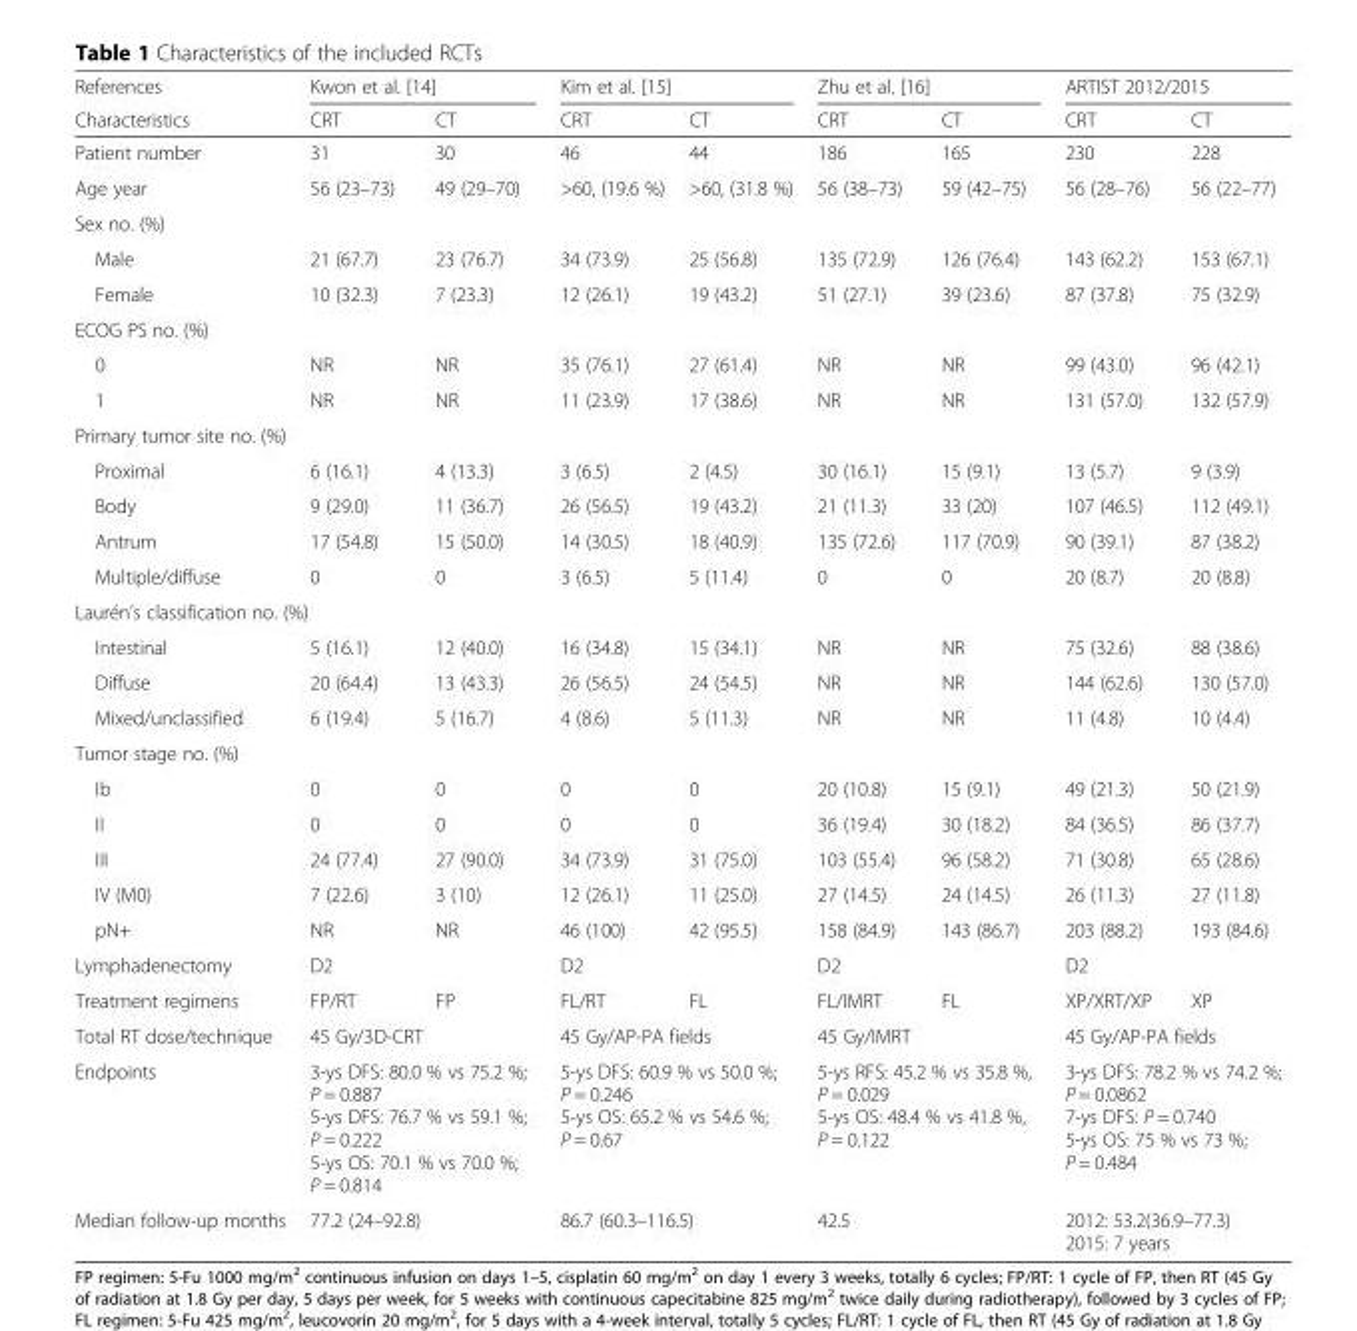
<table><thead><tr><td rowspan="2">References Characteristics</td><td colspan="2">Kwon et al. [14]</td><td colspan="2">Kim et al. [15]</td><td colspan="2">Zhu et al. [16]</td><td colspan="2">ARTIST 2012/2015</td></tr><tr><td>CRT</td><td>CT</td><td>CRT</td><td>CT</td><td>CRT</td><td>CT</td><td>CRT</td><td>CT</td></tr></thead><tbody><tr><td>Patient number</td><td>31</td><td>30</td><td>46</td><td>44</td><td>186</td><td>165</td><td>230</td><td>228</td></tr><tr><td>Age year</td><td>56 (23–73)</td><td>49 (29–70)</td><td>&gt;60, (19.6 %)</td><td>&gt;60, (31.8 %)</td><td>56 (38–73)</td><td>59 (42–75)</td><td>56 (28–76)</td><td>56 (22–77)</td></tr><tr><td colspan="9">Sex no. (%)</td></tr><tr><td>Male</td><td>21 (67.7)</td><td>23 (76.7)</td><td>34 (73.9)</td><td>25 (56.8)</td><td>135 (72.9)</td><td>126 (76.4)</td><td>143 (62.2)</td><td>153 (67.1)</td></tr><tr><td>Female</td><td>10 (32.3)</td><td>7 (23.3)</td><td>12 (26.1)</td><td>19 (43.2)</td><td>51 (27.1)</td><td>39 (23.6)</td><td>87 (37.8)</td><td>75 (32.9)</td></tr><tr><td colspan="9">ECOG PS no. (%)</td></tr><tr><td>0</td><td>NR</td><td>NR</td><td>35 (76.1)</td><td>27 (61.4)</td><td>NR</td><td>NR</td><td>99 (43.0)</td><td>96 (42.1)</td></tr><tr><td>1</td><td>NR</td><td>NR</td><td>11 (23.9)</td><td>17 (38.6)</td><td>NR</td><td>NR</td><td>131 (57.0)</td><td>132 (57.9)</td></tr><tr><td colspan="9">Primary tumor site no. (%)</td></tr><tr><td>Proximal</td><td>6 (16.1)</td><td>4 (13.3)</td><td>3 (6.5)</td><td>2 (4.5)</td><td>30 (16.1)</td><td>15 (9.1)</td><td>13 (5.7)</td><td>9 (3.9)</td></tr><tr><td>Body</td><td>9 (29.0)</td><td>11 (36.7)</td><td>26 (56.5)</td><td>19 (43.2)</td><td>21 (11.3)</td><td>33 (20)</td><td>107 (46.5)</td><td>112 (49.1)</td></tr><tr><td>Antrum</td><td>17 (54.8)</td><td>15 (50.0)</td><td>14 (30.5)</td><td>18 (40.9)</td><td>135 (72.6)</td><td>117 (70.9)</td><td>90 (39.1)</td><td>87 (38.2)</td></tr><tr><td>Multiple/diffuse</td><td>0</td><td>0</td><td>3 (6.5)</td><td>5 (11.4)</td><td>0</td><td>0</td><td>20 (8.7)</td><td>20 (8.8)</td></tr><tr><td colspan="9">Laurén’s classification no. (%)</td></tr><tr><td>Intestinal</td><td>5 (16.1)</td><td>12 (40.0)</td><td>16 (34.8)</td><td>15 (34.1)</td><td>NR</td><td>NR</td><td>75 (32.6)</td><td>88 (38.6)</td></tr><tr><td>Diffuse</td><td>20 (64.4)</td><td>13 (43.3)</td><td>26 (56.5)</td><td>24 (54.5)</td><td>NR</td><td>NR</td><td>144 (62.6)</td><td>130 (57.0)</td></tr><tr><td>Mixed/unclassified</td><td>6 (19.4)</td><td>5 (16.7)</td><td>4 (8.6)</td><td>5 (11.3)</td><td>NR</td><td>NR</td><td>11 (4.8)</td><td>10 (4.4)</td></tr><tr><td colspan="9">Tumor stage no. (%)</td></tr><tr><td>Ib</td><td>0</td><td>0</td><td>0</td><td>0</td><td>20 (10.8)</td><td>15 (9.1)</td><td>49 (21.3)</td><td>50 (21.9)</td></tr><tr><td>II</td><td>0</td><td>0</td><td>0</td><td>0</td><td>36 (19.4)</td><td>30 (18.2)</td><td>84 (36.5)</td><td>86 (37.7)</td></tr><tr><td>III</td><td>24 (77.4)</td><td>27 (90.0)</td><td>34 (73.9)</td><td>31 (75.0)</td><td>103 (55.4)</td><td>96 (58.2)</td><td>71 (30.8)</td><td>65 (28.6)</td></tr><tr><td>IV (M0)</td><td>7 (22.6)</td><td>3 (10)</td><td>12 (26.1)</td><td>11 (25.0)</td><td>27 (14.5)</td><td>24 (14.5)</td><td>26 (11.3)</td><td>27 (11.8)</td></tr><tr><td>pN+</td><td>NR</td><td>NR</td><td>46 (100)</td><td>42 (95.5)</td><td>158 (84.9)</td><td>143 (86.7)</td><td>203 (88.2)</td><td>193 (84.6)</td></tr><tr><td>Lymphadenectomy</td><td colspan="2">D2</td><td colspan="2">D2</td><td colspan="2">D2</td><td colspan="2">D2</td></tr><tr><td>Treatment regimens</td><td>FP/RT</td><td>FP</td><td>FL/RT</td><td>FL</td><td>FL/IMRT</td><td>FL</td><td>XP/XRT/XP</td><td>XP</td></tr><tr><td>Total RT dose/technique</td><td colspan="2">45 Gy/3D-CRT</td><td colspan="2">45 Gy/AP-PA fields</td><td colspan="2">45 Gy/IMRT</td><td colspan="2">45 Gy/AP-PA fields</td></tr><tr><td>Endpoints</td><td colspan="2">3-ys DFS: 80.0 % vs 75.2 %; P = 0.887 5-ys DFS: 76.7 % vs 59.1 %; P = 0.222 5-ys OS: 70.1 % vs 70.0 %; P = 0.814</td><td colspan="2">5-ys DFS: 60.9 % vs 50.0 %; P = 0.246 5-ys OS: 65.2 % vs 54.6 %; P = 0.67</td><td colspan="2">5-ys RFS: 45.2 % vs 35.8 %, P = 0.029 5-ys OS: 48.4 % vs 41.8 %, P = 0.122</td><td colspan="2">3-ys DFS: 78.2 % vs 74.2 %; P = 0.0862 7-ys DFS: P = 0.740 5-ys OS: 75 % vs 73 %; P = 0.484</td></tr><tr><td>Median follow-up months</td><td colspan="2">77.2 (24–92.8)</td><td colspan="2">86.7 (60.3–116.5)</td><td colspan="2">42.5</td><td colspan="2">2012: 53.2(36.9–77.3) 2015: 7 years</td></tr></tbody></table>